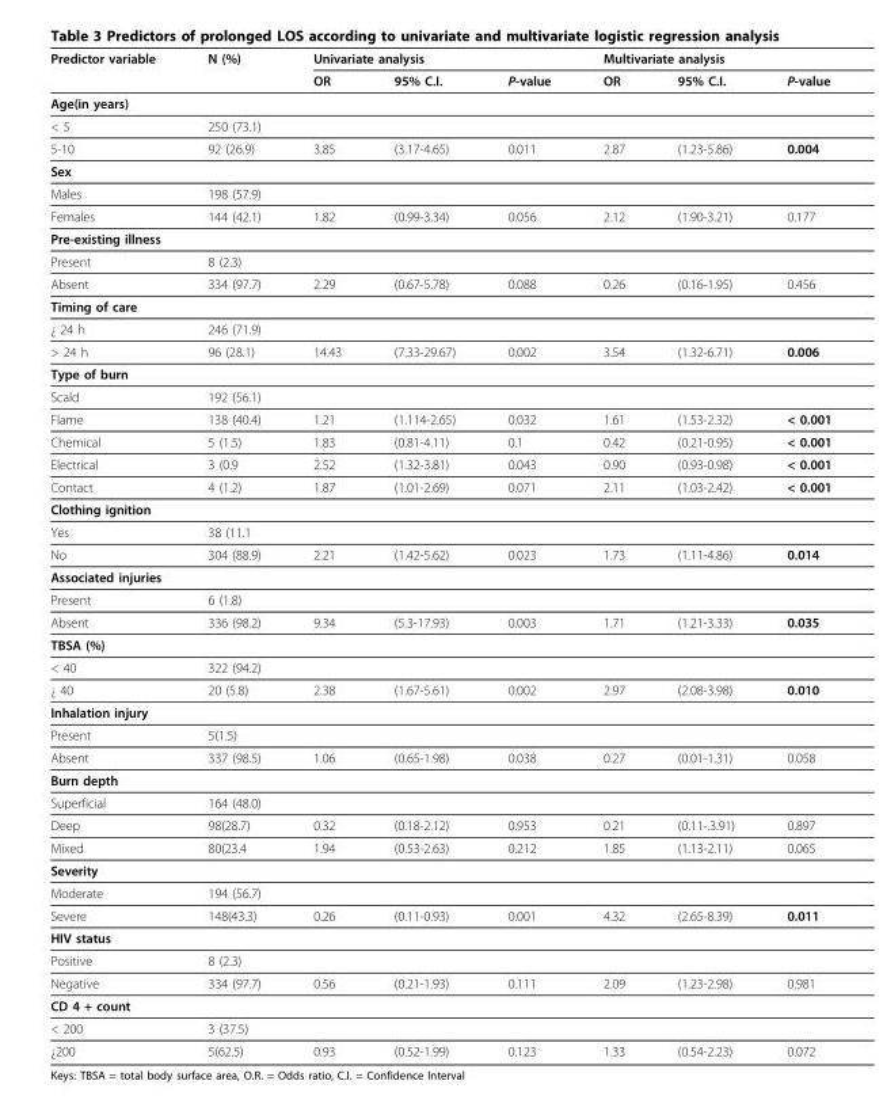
<table><thead><tr><td rowspan="2">Predictor variable</td><td rowspan="2">N (%)</td><td colspan="3">Univariate analysis</td><td colspan="3">Multivariate analysis</td></tr><tr><td>OR</td><td>95% C.I.</td><td>P-value</td><td>OR</td><td>95% C.I.</td><td>P-value</td></tr></thead><tbody><tr><td colspan="8">Age(in years)</td></tr><tr><td>&lt; 5</td><td>250 (73.1)</td><td></td><td></td><td></td><td></td><td></td><td></td></tr><tr><td>5-10</td><td>92 (26.9)</td><td>3.85</td><td>(3.17-4.65)</td><td>0.011</td><td>2.87</td><td>(1.23-5.86)</td><td>0.004</td></tr><tr><td colspan="8">Sex</td></tr><tr><td>Males</td><td>198 (57.9)</td><td></td><td></td><td></td><td></td><td></td><td></td></tr><tr><td>Females</td><td>144 (42.1)</td><td>1.82</td><td>(0.99-3.34)</td><td>0.056</td><td>2.12</td><td>(1.90-3.21)</td><td>0.177</td></tr><tr><td colspan="8">Pre-existing illness</td></tr><tr><td>Present</td><td>8 (2.3)</td><td></td><td></td><td></td><td></td><td></td><td></td></tr><tr><td>Absent</td><td>334 (97.7)</td><td>2.29</td><td>(0.67-5.78)</td><td>0.088</td><td>0.26</td><td>(0.16-1.95)</td><td>0.456</td></tr><tr><td colspan="8">Timing of care</td></tr><tr><td>¿ 24 h</td><td>246 (71.9)</td><td></td><td></td><td></td><td></td><td></td><td></td></tr><tr><td>&gt; 24 h</td><td>96 (28.1)</td><td>14.43</td><td>(7.33-29.67)</td><td>0.002</td><td>3.54</td><td>(1.32-6.71)</td><td>0.006</td></tr><tr><td colspan="8">Type of burn</td></tr><tr><td>Scald</td><td>192 (56.1)</td><td></td><td></td><td></td><td></td><td></td><td></td></tr><tr><td>Flame</td><td>138 (40.4)</td><td>1.21</td><td>(1.114-2.65)</td><td>0.032</td><td>1.61</td><td>(1.53-2.32)</td><td>&lt; 0.001</td></tr><tr><td>Chemical</td><td>5 (1.5)</td><td>1.83</td><td>(0.81-4.11)</td><td>0.1</td><td>0.42</td><td>(0.21-0.95)</td><td>&lt; 0.001</td></tr><tr><td>Electrical</td><td>3 (0.9</td><td>2.52</td><td>(1.32-3.81)</td><td>0.043</td><td>0.90</td><td>(0.93-0.98)</td><td>&lt; 0.001</td></tr><tr><td>Contact</td><td>4 (1.2)</td><td>1.87</td><td>(1.01-2.69)</td><td>0.071</td><td>2.11</td><td>(1.03-2.42)</td><td>&lt; 0.001</td></tr><tr><td colspan="8">Clothing ignition</td></tr><tr><td>Yes</td><td>38 (11.1</td><td></td><td></td><td></td><td></td><td></td><td></td></tr><tr><td>No</td><td>304 (88.9)</td><td>2.21</td><td>(1.42-5.62)</td><td>0.023</td><td>1.73</td><td>(1.11-4.86)</td><td>0.014</td></tr><tr><td colspan="8">Associated injuries</td></tr><tr><td>Present</td><td>6 (1.8)</td><td></td><td></td><td></td><td></td><td></td><td></td></tr><tr><td>Absent</td><td>336 (98.2)</td><td>9.34</td><td>(5.3-17.93)</td><td>0.003</td><td>1.71</td><td>(1.21-3.33)</td><td>0.035</td></tr><tr><td colspan="8">TBSA (%)</td></tr><tr><td>&lt; 40</td><td>322 (94.2)</td><td></td><td></td><td></td><td></td><td></td><td></td></tr><tr><td>¿ 40</td><td>20 (5.8)</td><td>2.38</td><td>(1.67-5.61)</td><td>0.002</td><td>2.97</td><td>(2.08-3.98)</td><td>0.010</td></tr><tr><td colspan="8">Inhalation injury</td></tr><tr><td>Present</td><td>5(1.5)</td><td></td><td></td><td></td><td></td><td></td><td></td></tr><tr><td>Absent</td><td>337 (98.5)</td><td>1.06</td><td>(0.65-1.98)</td><td>0.038</td><td>0.27</td><td>(0.01-1.31)</td><td>0.058</td></tr><tr><td colspan="8">Burn depth</td></tr><tr><td>Superficial</td><td>164 (48.0)</td><td></td><td></td><td></td><td></td><td></td><td></td></tr><tr><td>Deep</td><td>98(28.7)</td><td>0.32</td><td>(0.18-2.12)</td><td>0.953</td><td>0.21</td><td>(0.11-.3.91)</td><td>0.897</td></tr><tr><td>Mixed</td><td>80(23.4</td><td>1.94</td><td>(0.53-2.63)</td><td>0.212</td><td>1.85</td><td>(1.13-2.11)</td><td>0.065</td></tr><tr><td colspan="8">Severity</td></tr><tr><td>Moderate</td><td>194 (56.7)</td><td></td><td></td><td></td><td></td><td></td><td></td></tr><tr><td>Severe</td><td>148(43.3)</td><td>0.26</td><td>(0.11-0.93)</td><td>0.001</td><td>4.32</td><td>(2.65-8.39)</td><td>0.011</td></tr><tr><td colspan="8">HIV status</td></tr><tr><td>Positive</td><td>8 (2.3)</td><td></td><td></td><td></td><td></td><td></td><td></td></tr><tr><td>Negative</td><td>334 (97.7)</td><td>0.56</td><td>(0.21-1.93)</td><td>0.111</td><td>2.09</td><td>(1.23-2.98)</td><td>0.981</td></tr><tr><td colspan="8">CD 4 + count</td></tr><tr><td>&lt; 200</td><td>3 (37.5)</td><td></td><td></td><td></td><td></td><td></td><td></td></tr><tr><td>¿200</td><td>5(62.5)</td><td>0.93</td><td>(0.52-1.99)</td><td>0.123</td><td>1.33</td><td>(0.54-2.23)</td><td>0.072</td></tr></tbody></table>